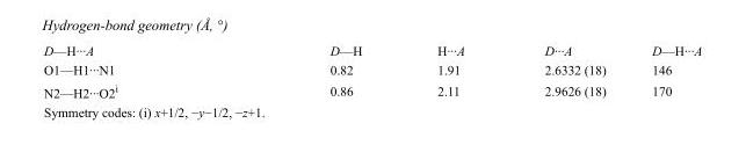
<table><tbody><tr><td>D—H···A</td><td>D—H</td><td>H···A</td><td>D···A</td><td>D—H···A</td></tr><tr><td>O1—H1···N1</td><td>0.82</td><td>1.91</td><td>2.6332 (18)</td><td>146</td></tr><tr><td>N2—H2···O2<sup>i</sup></td><td>0.86</td><td>2.11</td><td>2.9626 (18)</td><td>170</td></tr></tbody></table>